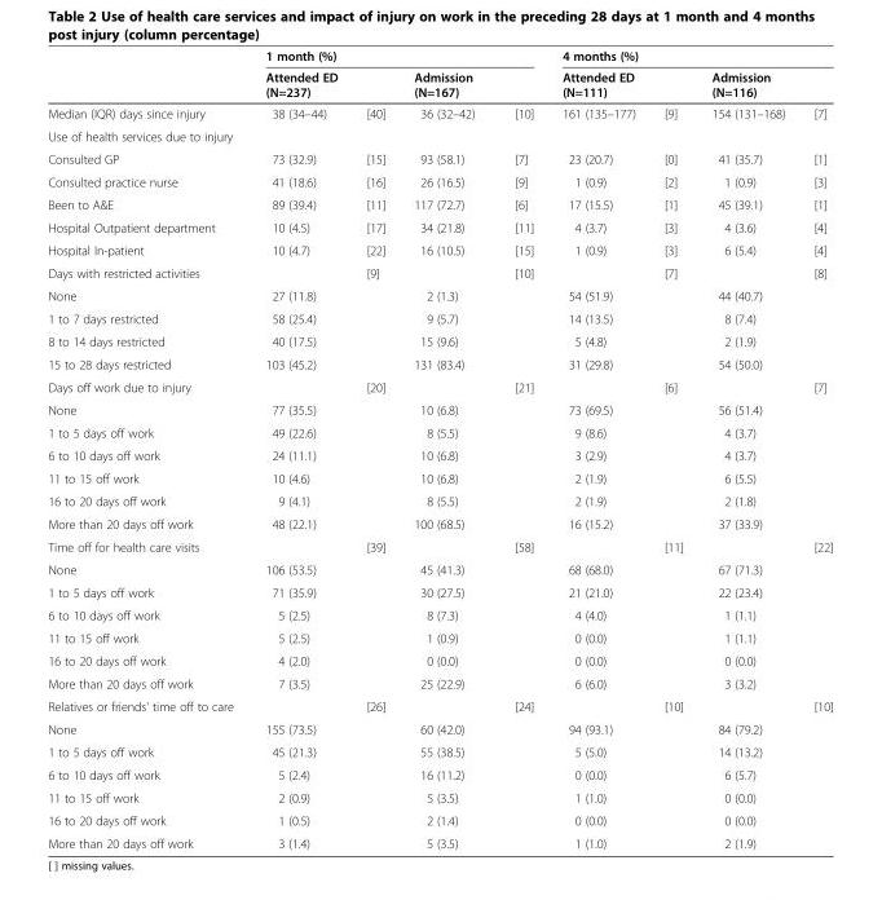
<table><thead><tr><td rowspan="2"></td><td colspan="4">1 month (%)</td><td colspan="4">4 months (%)</td></tr><tr><td>Attended ED (N=237)</td><td></td><td>Admission (N=167)</td><td></td><td>Attended ED (N=111)</td><td></td><td>Admission (N=116)</td><td></td></tr></thead><tbody><tr><td>Median (IQR) days since injury</td><td>38 (34–44)</td><td>[40]</td><td>36 (32–42)</td><td>[10]</td><td>161 (135–177)</td><td>[9]</td><td>154 (131–168)</td><td>[7]</td></tr><tr><td colspan="9">Use of health services due to injury</td></tr><tr><td>Consulted GP</td><td>73 (32.9)</td><td>[15]</td><td>93 (58.1)</td><td>[7]</td><td>23 (20.7)</td><td>[0]</td><td>41 (35.7)</td><td>[1]</td></tr><tr><td>Consulted practice nurse</td><td>41 (18.6)</td><td>[16]</td><td>26 (16.5)</td><td>[9]</td><td>1 (0.9)</td><td>[2]</td><td>1 (0.9)</td><td>[3]</td></tr><tr><td>Been to A&amp;E</td><td>89 (39.4)</td><td>[11]</td><td>117 (72.7)</td><td>[6]</td><td>17 (15.5)</td><td>[1]</td><td>45 (39.1)</td><td>[1]</td></tr><tr><td>Hospital Outpatient department</td><td>10 (4.5)</td><td>[17]</td><td>34 (21.8)</td><td>[11]</td><td>4 (3.7)</td><td>[3]</td><td>4 (3.6)</td><td>[4]</td></tr><tr><td>Hospital In-patient</td><td>10 (4.7)</td><td>[22]</td><td>16 (10.5)</td><td>[15]</td><td>1 (0.9)</td><td>[3]</td><td>6 (5.4)</td><td>[4]</td></tr><tr><td>Days with restricted activities</td><td></td><td>[9]</td><td></td><td>[10]</td><td></td><td>[7]</td><td></td><td>[8]</td></tr><tr><td>None</td><td>27 (11.8)</td><td></td><td>2 (1.3)</td><td></td><td>54 (51.9)</td><td></td><td>44 (40.7)</td><td></td></tr><tr><td>1 to 7 days restricted</td><td>58 (25.4)</td><td></td><td>9 (5.7)</td><td></td><td>14 (13.5)</td><td></td><td>8 (7.4)</td><td></td></tr><tr><td>8 to 14 days restricted</td><td>40 (17.5)</td><td></td><td>15 (9.6)</td><td></td><td>5 (4.8)</td><td></td><td>2 (1.9)</td><td></td></tr><tr><td>15 to 28 days restricted</td><td>103 (45.2)</td><td></td><td>131 (83.4)</td><td></td><td>31 (29.8)</td><td></td><td>54 (50.0)</td><td></td></tr><tr><td>Days off work due to injury</td><td></td><td>[20]</td><td></td><td>[21]</td><td></td><td>[6]</td><td></td><td>[7]</td></tr><tr><td>None</td><td>77 (35.5)</td><td></td><td>10 (6.8)</td><td></td><td>73 (69.5)</td><td></td><td>56 (51.4)</td><td></td></tr><tr><td>1 to 5 days off work</td><td>49 (22.6)</td><td></td><td>8 (5.5)</td><td></td><td>9 (8.6)</td><td></td><td>4 (3.7)</td><td></td></tr><tr><td>6 to 10 days off work</td><td>24 (11.1)</td><td></td><td>10 (6.8)</td><td></td><td>3 (2.9)</td><td></td><td>4 (3.7)</td><td></td></tr><tr><td>11 to 15 off work</td><td>10 (4.6)</td><td></td><td>10 (6.8)</td><td></td><td>2 (1.9)</td><td></td><td>6 (5.5)</td><td></td></tr><tr><td>16 to 20 days off work</td><td>9 (4.1)</td><td></td><td>8 (5.5)</td><td></td><td>2 (1.9)</td><td></td><td>2 (1.8)</td><td></td></tr><tr><td>More than 20 days off work</td><td>48 (22.1)</td><td></td><td>100 (68.5)</td><td></td><td>16 (15.2)</td><td></td><td>37 (33.9)</td><td></td></tr><tr><td>Time off for health care visits</td><td></td><td>[39]</td><td></td><td>[58]</td><td></td><td>[11]</td><td></td><td>[22]</td></tr><tr><td>None</td><td>106 (53.5)</td><td></td><td>45 (41.3)</td><td></td><td>68 (68.0)</td><td></td><td>67 (71.3)</td><td></td></tr><tr><td>1 to 5 days off work</td><td>71 (35.9)</td><td></td><td>30 (27.5)</td><td></td><td>21 (21.0)</td><td></td><td>22 (23.4)</td><td></td></tr><tr><td>6 to 10 days off work</td><td>5 (2.5)</td><td></td><td>8 (7.3)</td><td></td><td>4 (4.0)</td><td></td><td>1 (1.1)</td><td></td></tr><tr><td>11 to 15 off work</td><td>5 (2.5)</td><td></td><td>1 (0.9)</td><td></td><td>0 (0.0)</td><td></td><td>1 (1.1)</td><td></td></tr><tr><td>16 to 20 days off work</td><td>4 (2.0)</td><td></td><td>0 (0.0)</td><td></td><td>0 (0.0)</td><td></td><td>0 (0.0)</td><td></td></tr><tr><td>More than 20 days off work</td><td>7 (3.5)</td><td></td><td>25 (22.9)</td><td></td><td>6 (6.0)</td><td></td><td>3 (3.2)</td><td></td></tr><tr><td>Relatives or friends&#x27; time off to care</td><td></td><td>[26]</td><td></td><td>[24]</td><td></td><td>[10]</td><td></td><td>[10]</td></tr><tr><td>None</td><td>155 (73.5)</td><td></td><td>60 (42.0)</td><td></td><td>94 (93.1)</td><td></td><td>84 (79.2)</td><td></td></tr><tr><td>1 to 5 days off work</td><td>45 (21.3)</td><td></td><td>55 (38.5)</td><td></td><td>5 (5.0)</td><td></td><td>14 (13.2)</td><td></td></tr><tr><td>6 to 10 days off work</td><td>5 (2.4)</td><td></td><td>16 (11.2)</td><td></td><td>0 (0.0)</td><td></td><td>6 (5.7)</td><td></td></tr><tr><td>11 to 15 off work</td><td>2 (0.9)</td><td></td><td>5 (3.5)</td><td></td><td>1 (1.0)</td><td></td><td>0 (0.0)</td><td></td></tr><tr><td>16 to 20 days off work</td><td>1 (0.5)</td><td></td><td>2 (1.4)</td><td></td><td>0 (0.0)</td><td></td><td>0 (0.0)</td><td></td></tr><tr><td>More than 20 days off work</td><td>3 (1.4)</td><td></td><td>5 (3.5)</td><td></td><td>1 (1.0)</td><td></td><td>2 (1.9)</td><td></td></tr></tbody></table>